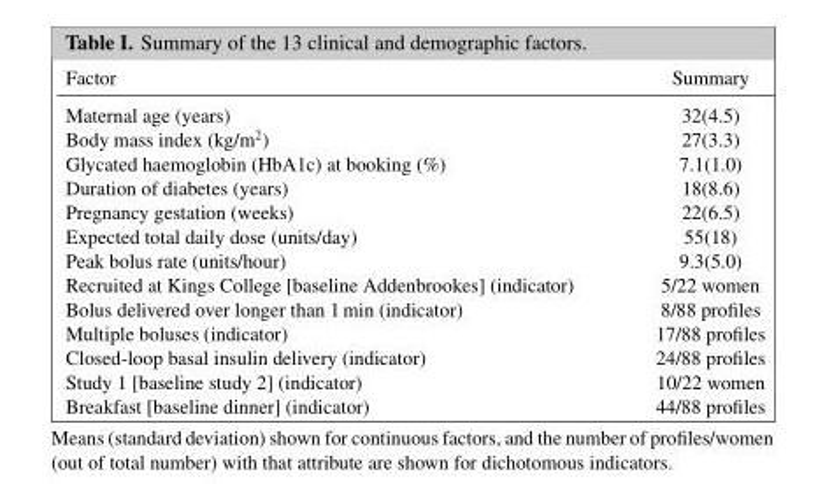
<table><thead><tr><td>Factor</td><td>Summary</td></tr></thead><tbody><tr><td>Maternal age (years)</td><td>32(4.5)</td></tr><tr><td>Body mass index (kg/m<sup>2</sup>)</td><td>27(3.3)</td></tr><tr><td>Glycated haemoglobin (HbA1c) at booking (%)</td><td>7.1(1.0)</td></tr><tr><td>Duration of diabetes (years)</td><td>18(8.6)</td></tr><tr><td>Pregnancy gestation (weeks)</td><td>22(6.5)</td></tr><tr><td>Expected total daily dose (units/day)</td><td>55(18)</td></tr><tr><td>Peak bolus rate (units/hour)</td><td>9.3(5.0)</td></tr><tr><td>Recruited at Kings College [baseline Addenbrookes] (indicator)</td><td>5/22 women</td></tr><tr><td>Bolus delivered over longer than 1 min (indicator)</td><td>8/88 profiles</td></tr><tr><td>Multiple boluses (indicator)</td><td>17/88 profiles</td></tr><tr><td>Closed-loop basal insulin delivery (indicator)</td><td>24/88 profiles</td></tr><tr><td>Study 1 [baseline study 2] (indicator)</td><td>10/22 women</td></tr><tr><td>Breakfast [baseline dinner] (indicator)</td><td>44/88 profiles</td></tr></tbody></table>